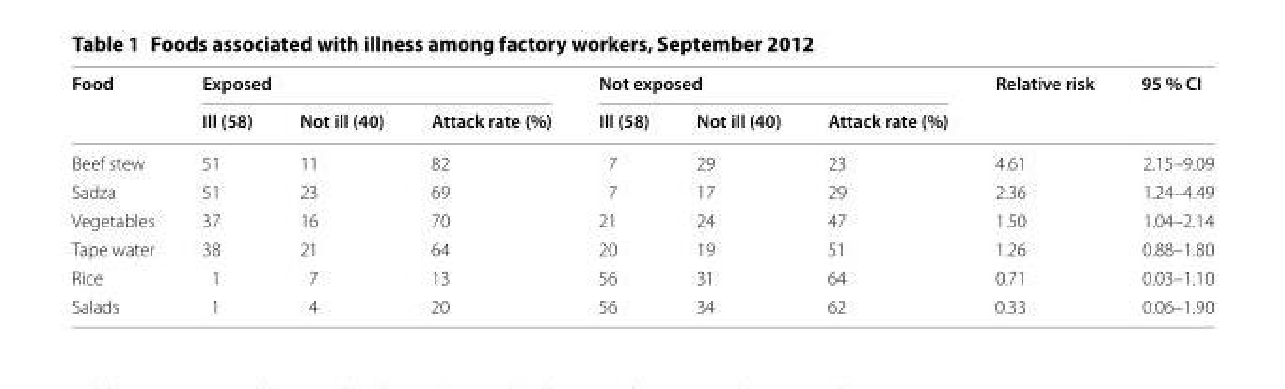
<table><thead><tr><td rowspan="2">Food</td><td colspan="3">Exposed</td><td colspan="3">Not exposed</td><td rowspan="2">Relative risk</td><td rowspan="2">95 % CI</td></tr><tr><td>Ill (58)</td><td>Not ill (40)</td><td>Attack rate (%)</td><td>Ill (58)</td><td>Not ill (40)</td><td>Attack rate (%)</td></tr></thead><tbody><tr><td>Beef stew</td><td>51</td><td>11</td><td>82</td><td>7</td><td>29</td><td>23</td><td>4.61</td><td>2.15–9.09</td></tr><tr><td>Sadza</td><td>51</td><td>23</td><td>69</td><td>7</td><td>17</td><td>29</td><td>2.36</td><td>1.24–4.49</td></tr><tr><td>Vegetables</td><td>37</td><td>16</td><td>70</td><td>21</td><td>24</td><td>47</td><td>1.50</td><td>1.04–2.14</td></tr><tr><td>Tape water</td><td>38</td><td>21</td><td>64</td><td>20</td><td>19</td><td>51</td><td>1.26</td><td>0.88–1.80</td></tr><tr><td>Rice</td><td>1</td><td>7</td><td>13</td><td>56</td><td>31</td><td>64</td><td>0.71</td><td>0.03–1.10</td></tr><tr><td>Salads</td><td>1</td><td>4</td><td>20</td><td>56</td><td>34</td><td>62</td><td>0.33</td><td>0.06–1.90</td></tr></tbody></table>